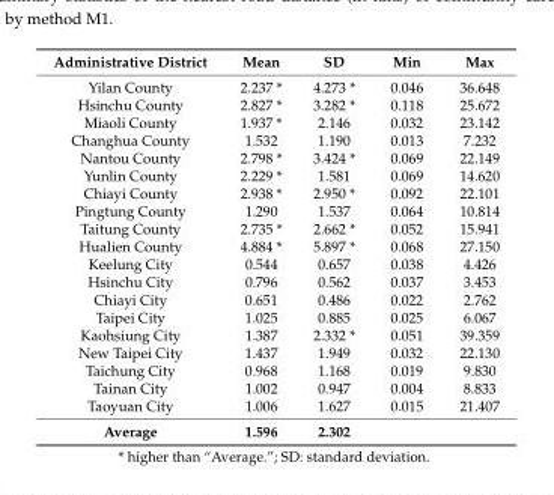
<table><thead><tr><td>Administrative District</td><td>Mean</td><td>SD</td><td>Min</td><td>Max</td></tr></thead><tbody><tr><td>Yilan County</td><td>2.237 *</td><td>4.273 *</td><td>0.046</td><td>36.648</td></tr><tr><td>Hsinchu County</td><td>2.827 *</td><td>3.282 *</td><td>0.118</td><td>25.672</td></tr><tr><td>Miaoli County</td><td>1.937 *</td><td>2.146</td><td>0.032</td><td>23.142</td></tr><tr><td>Changhua County</td><td>1.532</td><td>1.190</td><td>0.013</td><td>7.232</td></tr><tr><td>Nantou County</td><td>2.798 *</td><td>3.424 *</td><td>0.069</td><td>22.149</td></tr><tr><td>Yunlin County</td><td>2.229 *</td><td>1.581</td><td>0.069</td><td>14.620</td></tr><tr><td>Chiayi County</td><td>2.938 *</td><td>2.950 *</td><td>0.092</td><td>22.101</td></tr><tr><td>Pingtung County</td><td>1.290</td><td>1.537</td><td>0.064</td><td>10.814</td></tr><tr><td>Taitung County</td><td>2.735 *</td><td>2.662 *</td><td>0.052</td><td>15.941</td></tr><tr><td>Hualien County</td><td>4.884 *</td><td>5.897 *</td><td>0.068</td><td>27.150</td></tr><tr><td>Keelung City</td><td>0.544</td><td>0.657</td><td>0.038</td><td>4.426</td></tr><tr><td>Hsinchu City</td><td>0.796</td><td>0.562</td><td>0.037</td><td>3.453</td></tr><tr><td>Chiayi City</td><td>0.651</td><td>0.486</td><td>0.022</td><td>2.762</td></tr><tr><td>Taipei City</td><td>1.025</td><td>0.885</td><td>0.025</td><td>6.067</td></tr><tr><td>Kaohsiung City</td><td>1.387</td><td>2.332 *</td><td>0.051</td><td>39.359</td></tr><tr><td>New Taipei City</td><td>1.437</td><td>1.949</td><td>0.032</td><td>22.130</td></tr><tr><td>Taichung City</td><td>0.968</td><td>1.168</td><td>0.019</td><td>9.830</td></tr><tr><td>Tainan City</td><td>1.002</td><td>0.947</td><td>0.004</td><td>8.833</td></tr><tr><td>Taoyuan City</td><td>1.006</td><td>1.627</td><td>0.015</td><td>21.407</td></tr><tr><td>Average</td><td>1.596</td><td>2.302</td><td></td><td></td></tr></tbody></table>